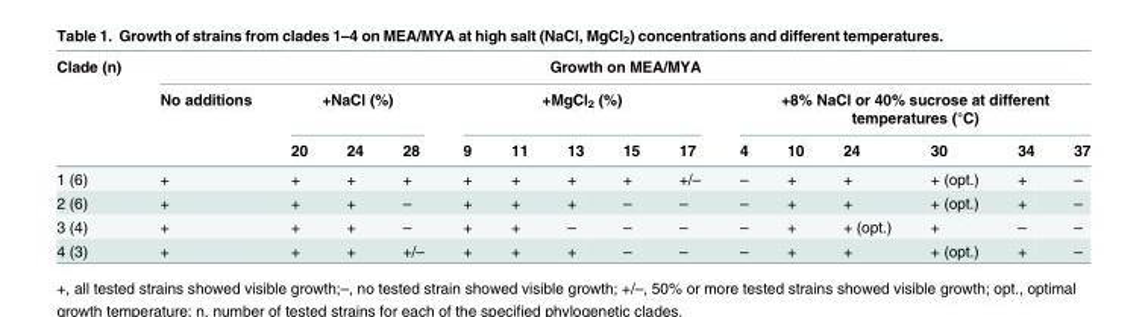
<table><thead><tr><td rowspan="3">Clade (n)</td><td colspan="15">Growth on MEA/MYA</td></tr><tr><td rowspan="2">No additions</td><td colspan="3">+NaCl (%)</td><td colspan="5">+MgCl<sub>2</sub> (%)</td><td colspan="6">+8% NaCl or 40% sucrose at different temperatures (°C)</td></tr><tr><td>20</td><td>24</td><td>28</td><td>9</td><td>11</td><td>13</td><td>15</td><td>17</td><td>4</td><td>10</td><td>24</td><td>30</td><td>34</td><td>37</td></tr></thead><tbody><tr><td>1 (6)</td><td>+</td><td>+</td><td>+</td><td>+</td><td>+</td><td>+</td><td>+</td><td>+</td><td>+/–</td><td>–</td><td>+</td><td>+</td><td>+ (opt.)</td><td>+</td><td>–</td></tr><tr><td>2 (6)</td><td>+</td><td>+</td><td>+</td><td>–</td><td>+</td><td>+</td><td>+</td><td>–</td><td>–</td><td>–</td><td>+</td><td>+</td><td>+ (opt.)</td><td>+</td><td>–</td></tr><tr><td>3 (4)</td><td>+</td><td>+</td><td>+</td><td>–</td><td>+</td><td>+</td><td>–</td><td>–</td><td>–</td><td>–</td><td>+</td><td>+ (opt.)</td><td>+</td><td>–</td><td>–</td></tr><tr><td>4 (3)</td><td>+</td><td>+</td><td>+</td><td>+/–</td><td>+</td><td>+</td><td>+</td><td>–</td><td>–</td><td>–</td><td>+</td><td>+</td><td>+ (opt.)</td><td>+</td><td>–</td></tr></tbody></table>